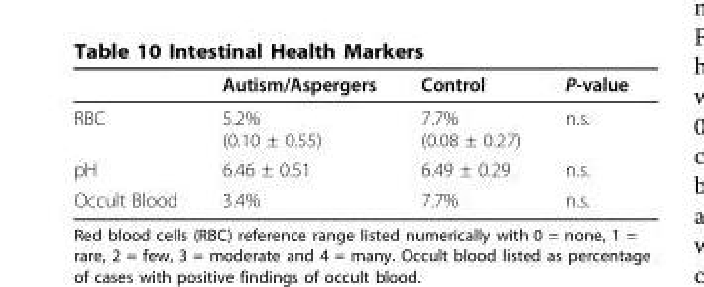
<table><thead><tr><td></td><td>Autism/Aspergers</td><td>Control</td><td>P-value</td></tr></thead><tbody><tr><td>RBC</td><td>5.2% (0.10 ± 0.55)</td><td>7.7% (0.08 ± 0.27)</td><td>n.s.</td></tr><tr><td>pH</td><td>6.46 ± 0.51</td><td>6.49 ± 0.29</td><td>n.s.</td></tr><tr><td>Occult Blood</td><td>3.4%</td><td>7.7%</td><td>n.s.</td></tr></tbody></table>